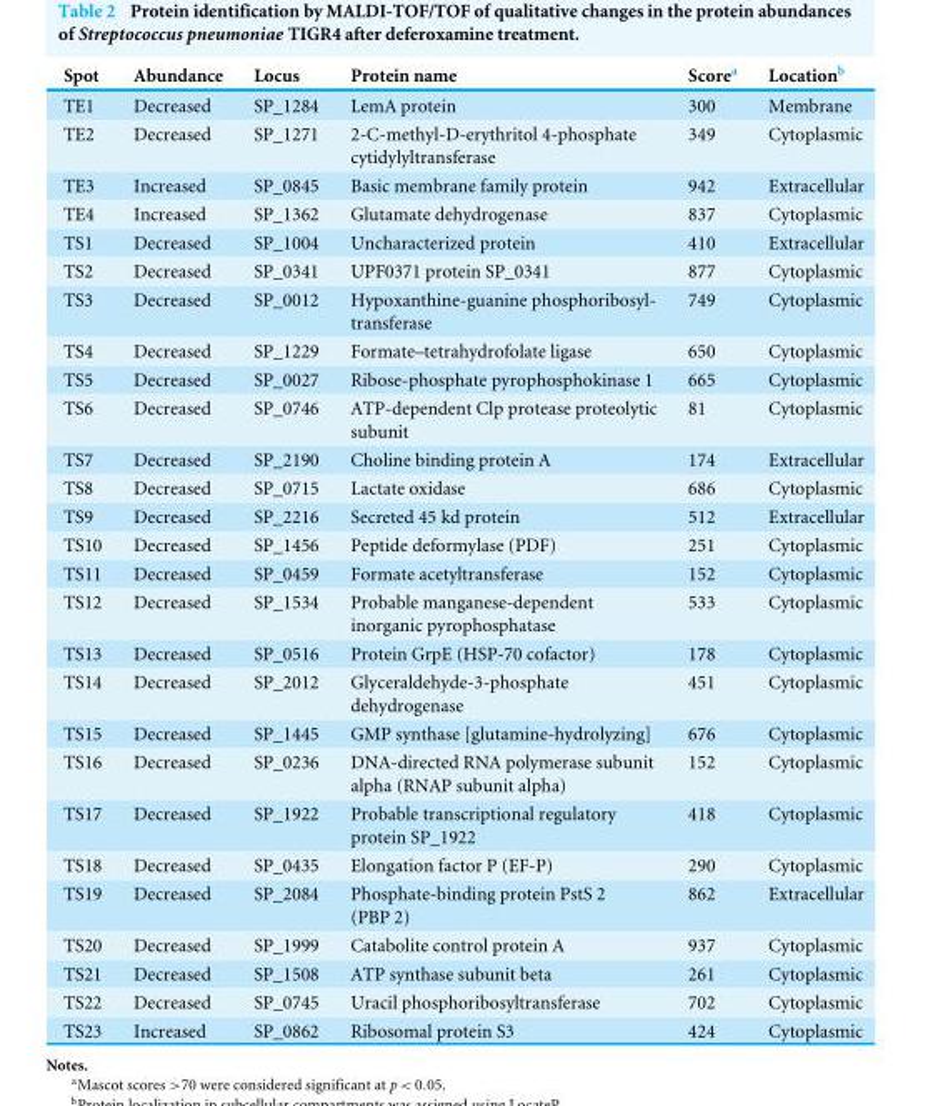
<table><thead><tr><td>Spot</td><td>Abundance</td><td>Locus</td><td>Protein name</td><td>Score<sup>a</sup></td><td>Location<sup>b</sup></td></tr></thead><tbody><tr><td>TE1</td><td>Decreased</td><td>SP_1284</td><td>LemA protein</td><td>300</td><td>Membrane</td></tr><tr><td>TE2</td><td>Decreased</td><td>SP_1271</td><td>2-C-methyl-D-erythritol 4-phosphate cytidylyltransferase</td><td>349</td><td>Cytoplasmic</td></tr><tr><td>TE3</td><td>Increased</td><td>SP_0845</td><td>Basic membrane family protein</td><td>942</td><td>Extracellular</td></tr><tr><td>TE4</td><td>Increased</td><td>SP_1362</td><td>Glutamate dehydrogenase</td><td>837</td><td>Cytoplasmic</td></tr><tr><td>TS1</td><td>Decreased</td><td>SP_1004</td><td>Uncharacterized protein</td><td>410</td><td>Extracellular</td></tr><tr><td>TS2</td><td>Decreased</td><td>SP_0341</td><td>UPF0371 protein SP_0341</td><td>877</td><td>Cytoplasmic</td></tr><tr><td>TS3</td><td>Decreased</td><td>SP_0012</td><td>Hypoxanthine-guanine phosphoribosyl- transferase</td><td>749</td><td>Cytoplasmic</td></tr><tr><td>TS4</td><td>Decreased</td><td>SP_1229</td><td>Formate–tetrahydrofolate ligase</td><td>650</td><td>Cytoplasmic</td></tr><tr><td>TS5</td><td>Decreased</td><td>SP_0027</td><td>Ribose-phosphate pyrophosphokinase 1</td><td>665</td><td>Cytoplasmic</td></tr><tr><td>TS6</td><td>Decreased</td><td>SP_0746</td><td>ATP-dependent Clp protease proteolytic subunit</td><td>81</td><td>Cytoplasmic</td></tr><tr><td>TS7</td><td>Decreased</td><td>SP_2190</td><td>Choline binding protein A</td><td>174</td><td>Extracellular</td></tr><tr><td>TS8</td><td>Decreased</td><td>SP_0715</td><td>Lactate oxidase</td><td>686</td><td>Cytoplasmic</td></tr><tr><td>TS9</td><td>Decreased</td><td>SP_2216</td><td>Secreted 45 kd protein</td><td>512</td><td>Extracellular</td></tr><tr><td>TS10</td><td>Decreased</td><td>SP_1456</td><td>Peptide deformylase (PDF)</td><td>251</td><td>Cytoplasmic</td></tr><tr><td>TS11</td><td>Decreased</td><td>SP_0459</td><td>Formate acetyltransferase</td><td>152</td><td>Cytoplasmic</td></tr><tr><td>TS12</td><td>Decreased</td><td>SP_1534</td><td>Probable manganese-dependent inorganic pyrophosphatase</td><td>533</td><td>Cytoplasmic</td></tr><tr><td>TS13</td><td>Decreased</td><td>SP_0516</td><td>Protein GrpE (HSP-70 cofactor)</td><td>178</td><td>Cytoplasmic</td></tr><tr><td>TS14</td><td>Decreased</td><td>SP_2012</td><td>Glyceraldehyde-3-phosphate dehydrogenase</td><td>451</td><td>Cytoplasmic</td></tr><tr><td>TS15</td><td>Decreased</td><td>SP_1445</td><td>GMP synthase [glutamine-hydrolyzing]</td><td>676</td><td>Cytoplasmic</td></tr><tr><td>TS16</td><td>Decreased</td><td>SP_0236</td><td>DNA-directed RNA polymerase subunit alpha (RNAP subunit alpha)</td><td>152</td><td>Cytoplasmic</td></tr><tr><td>TS17</td><td>Decreased</td><td>SP_1922</td><td>Probable transcriptional regulatory protein SP_1922</td><td>418</td><td>Cytoplasmic</td></tr><tr><td>TS18</td><td>Decreased</td><td>SP_0435</td><td>Elongation factor P (EF-P)</td><td>290</td><td>Cytoplasmic</td></tr><tr><td>TS19</td><td>Decreased</td><td>SP_2084</td><td>Phosphate-binding protein PstS 2 (PBP 2)</td><td>862</td><td>Extracellular</td></tr><tr><td>TS20</td><td>Decreased</td><td>SP_1999</td><td>Catabolite control protein A</td><td>937</td><td>Cytoplasmic</td></tr><tr><td>TS21</td><td>Decreased</td><td>SP_1508</td><td>ATP synthase subunit beta</td><td>261</td><td>Cytoplasmic</td></tr><tr><td>TS22</td><td>Decreased</td><td>SP_0745</td><td>Uracil phosphoribosyltransferase</td><td>702</td><td>Cytoplasmic</td></tr><tr><td>TS23</td><td>Increased</td><td>SP_0862</td><td>Ribosomal protein S3</td><td>424</td><td>Cytoplasmic</td></tr></tbody></table>